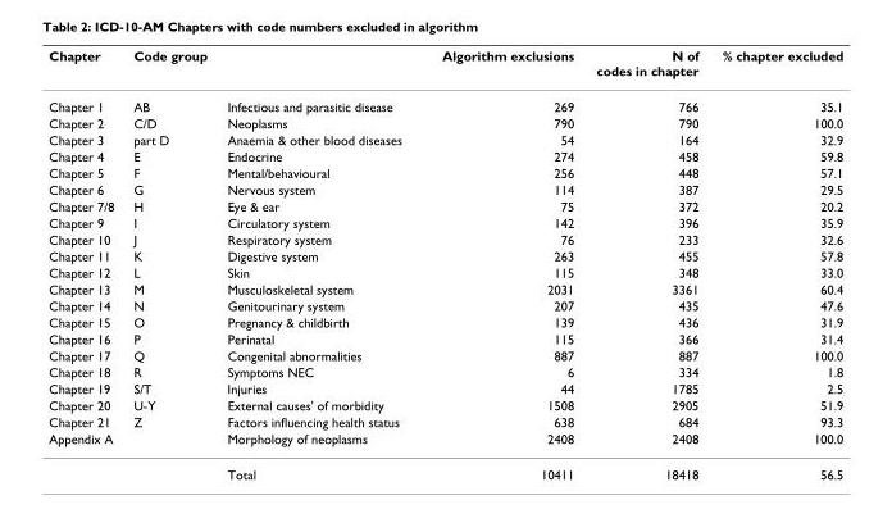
<table><thead><tr><td>Chapter</td><td>Code group</td><td></td><td>Algorithm exclusions</td><td>N of codes in chapter</td><td>% chapter excluded</td></tr></thead><tbody><tr><td>Chapter 1</td><td>AB</td><td>Infectious and parasitic disease</td><td>269</td><td>766</td><td>35.1</td></tr><tr><td>Chapter 2</td><td>C/D</td><td>Neoplasms</td><td>790</td><td>790</td><td>100.0</td></tr><tr><td>Chapter 3</td><td>part D</td><td>Anaemia &amp; other blood diseases</td><td>54</td><td>164</td><td>32.9</td></tr><tr><td>Chapter 4</td><td>E</td><td>Endocrine</td><td>274</td><td>458</td><td>59.8</td></tr><tr><td>Chapter 5</td><td>F</td><td>Mental/behavioural</td><td>256</td><td>448</td><td>57.1</td></tr><tr><td>Chapter 6</td><td>G</td><td>Nervous system</td><td>114</td><td>387</td><td>29.5</td></tr><tr><td>Chapter 7/8</td><td>H</td><td>Eye &amp; ear</td><td>75</td><td>372</td><td>20.2</td></tr><tr><td>Chapter 9</td><td>I</td><td>Circulatory system</td><td>142</td><td>396</td><td>35.9</td></tr><tr><td>Chapter 10</td><td>J</td><td>Respiratory system</td><td>76</td><td>233</td><td>32.6</td></tr><tr><td>Chapter 11</td><td>K</td><td>Digestive system</td><td>263</td><td>455</td><td>57.8</td></tr><tr><td>Chapter 12</td><td>L</td><td>Skin</td><td>115</td><td>348</td><td>33.0</td></tr><tr><td>Chapter 13</td><td>M</td><td>Musculoskeletal system</td><td>2031</td><td>3361</td><td>60.4</td></tr><tr><td>Chapter 14</td><td>N</td><td>Genitourinary system</td><td>207</td><td>435</td><td>47.6</td></tr><tr><td>Chapter 15</td><td>O</td><td>Pregnancy &amp; childbirth</td><td>139</td><td>436</td><td>31.9</td></tr><tr><td>Chapter 16</td><td>P</td><td>Perinatal</td><td>115</td><td>366</td><td>31.4</td></tr><tr><td>Chapter 17</td><td>Q</td><td>Congenital abnormalities</td><td>887</td><td>887</td><td>100.0</td></tr><tr><td>Chapter 18</td><td>R</td><td>Symptoms NEC</td><td>6</td><td>334</td><td>1.8</td></tr><tr><td>Chapter 19</td><td>S/T</td><td>Injuries</td><td>44</td><td>1785</td><td>2.5</td></tr><tr><td>Chapter 20</td><td>U-Y</td><td>External causes&#x27; of morbidity</td><td>1508</td><td>2905</td><td>51.9</td></tr><tr><td>Chapter 21</td><td>Z</td><td>Factors influencing health status</td><td>638</td><td>684</td><td>93.3</td></tr><tr><td rowspan="2">Appendix A</td><td></td><td>Morphology of neoplasms</td><td>2408</td><td>2408</td><td>100.0</td></tr><tr><td></td><td>Total</td><td>10411</td><td>18418</td><td>56.5</td></tr></tbody></table>